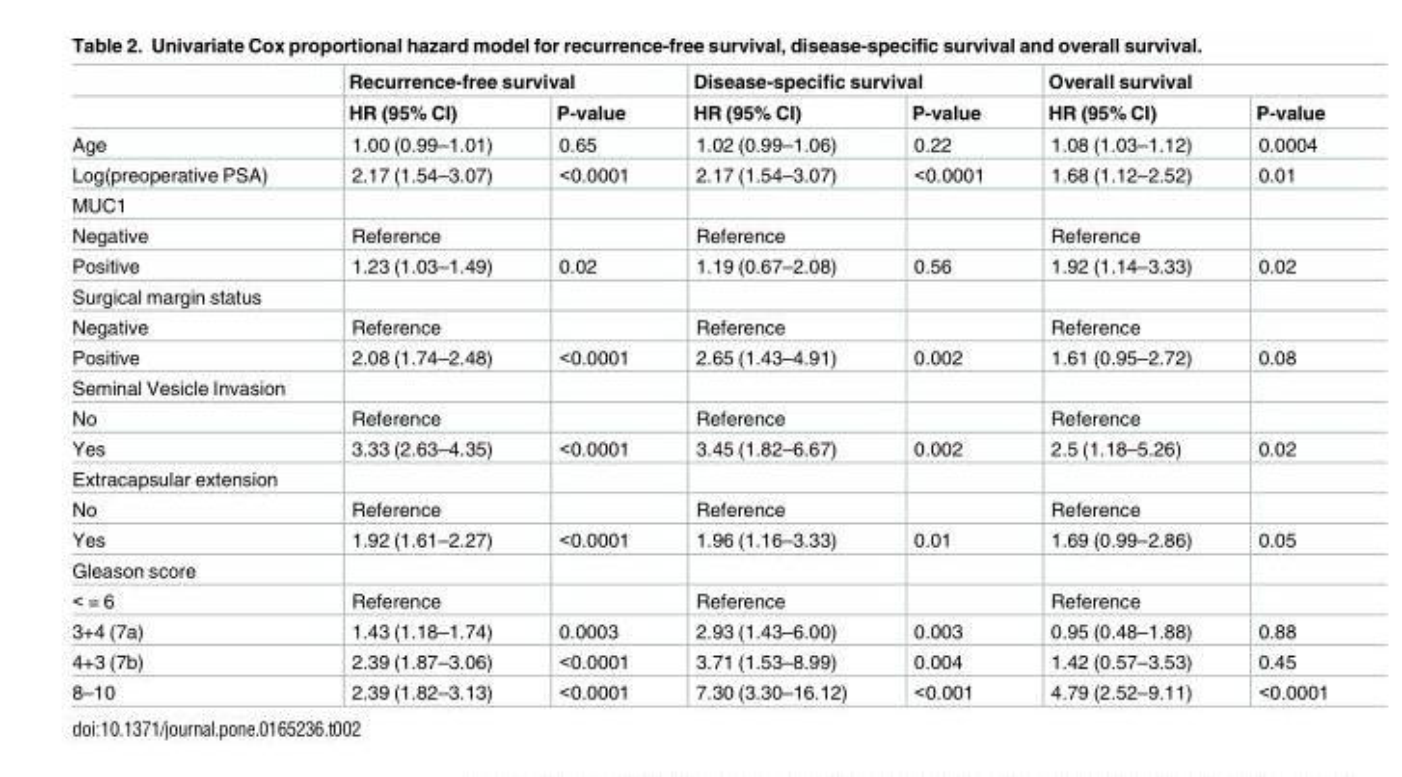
<table><thead><tr><td rowspan="2"></td><td colspan="2">Recurrence-free survival</td><td colspan="2">Disease-specific survival</td><td colspan="2">Overall survival</td></tr><tr><td>HR (95% CI)</td><td>P-value</td><td>HR (95% CI)</td><td>P-value</td><td>HR (95% CI)</td><td>P-value</td></tr></thead><tbody><tr><td>Age</td><td>1.00 (0.99–1.01)</td><td>0.65</td><td>1.02 (0.99–1.06)</td><td>0.22</td><td>1.08 (1.03–1.12)</td><td>0.0004</td></tr><tr><td>Log(preoperative PSA)</td><td>2.17 (1.54–3.07)</td><td>&lt;0.0001</td><td>2.17 (1.54–3.07)</td><td>&lt;0.0001</td><td>1.68 (1.12–2.52)</td><td>0.01</td></tr><tr><td colspan="7">MUC1</td></tr><tr><td>Negative</td><td>Reference</td><td></td><td>Reference</td><td></td><td>Reference</td><td></td></tr><tr><td>Positive</td><td>1.23 (1.03–1.49)</td><td>0.02</td><td>1.19 (0.67–2.08)</td><td>0.56</td><td>1.92 (1.14–3.33)</td><td>0.02</td></tr><tr><td colspan="7">Surgical margin status</td></tr><tr><td>Negative</td><td>Reference</td><td></td><td>Reference</td><td></td><td>Reference</td><td></td></tr><tr><td>Positive</td><td>2.08 (1.74–2.48)</td><td>&lt;0.0001</td><td>2.65 (1.43–4.91)</td><td>0.002</td><td>1.61 (0.95–2.72)</td><td>0.08</td></tr><tr><td colspan="7">Seminal Vesicle Invasion</td></tr><tr><td>No</td><td>Reference</td><td></td><td>Reference</td><td></td><td>Reference</td><td></td></tr><tr><td>Yes</td><td>3.33 (2.63–4.35)</td><td>&lt;0.0001</td><td>3.45 (1.82–6.67)</td><td>0.002</td><td>2.5 (1.18–5.26)</td><td>0.02</td></tr><tr><td colspan="7">Extracapsular extension</td></tr><tr><td>No</td><td>Reference</td><td></td><td>Reference</td><td></td><td>Reference</td><td></td></tr><tr><td>Yes</td><td>1.92 (1.61–2.27)</td><td>&lt;0.0001</td><td>1.96 (1.16–3.33)</td><td>0.01</td><td>1.69 (0.99–2.86)</td><td>0.05</td></tr><tr><td colspan="7">Gleason score</td></tr><tr><td>&lt; = 6</td><td>Reference</td><td></td><td>Reference</td><td></td><td>Reference</td><td></td></tr><tr><td>3+4 (7a)</td><td>1.43 (1.18–1.74)</td><td>0.0003</td><td>2.93 (1.43–6.00)</td><td>0.003</td><td>0.95 (0.48–1.88)</td><td>0.88</td></tr><tr><td>4+3 (7b)</td><td>2.39 (1.87–3.06)</td><td>&lt;0.0001</td><td>3.71 (1.53–8.99)</td><td>0.004</td><td>1.42 (0.57–3.53)</td><td>0.45</td></tr><tr><td>8–10</td><td>2.39 (1.82–3.13)</td><td>&lt;0.0001</td><td>7.30 (3.30–16.12)</td><td>&lt;0.001</td><td>4.79 (2.52–9.11)</td><td>&lt;0.0001</td></tr></tbody></table>